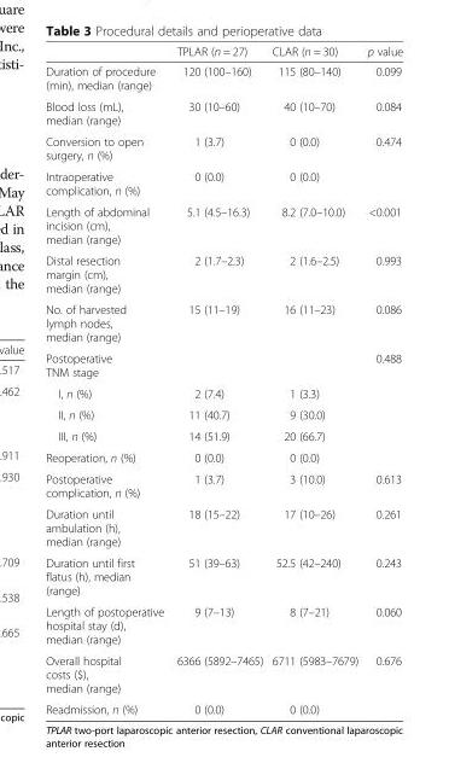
<table><thead><tr><td></td><td>TPLAR (n = 27)</td><td>CLAR (n = 30)</td><td>p value</td></tr></thead><tbody><tr><td>Duration of procedure (min), median (range)</td><td>120 (100–160)</td><td>115 (80–140)</td><td>0.099</td></tr><tr><td>Blood loss (mL), median (range)</td><td>30 (10–60)</td><td>40 (10–70)</td><td>0.084</td></tr><tr><td>Conversion to open surgery, n (%)</td><td>1 (3.7)</td><td>0 (0.0)</td><td>0.474</td></tr><tr><td>Intraoperative complication, n (%)</td><td>0 (0.0)</td><td>0 (0.0)</td><td></td></tr><tr><td>Length of abdominal incision (cm), median (range)</td><td>5.1 (4.5–16.3)</td><td>8.2 (7.0–10.0)</td><td>&lt;0.001</td></tr><tr><td>Distal resection margin (cm), median (range)</td><td>2 (1.7–2.3)</td><td>2 (1.6–2.5)</td><td>0.993</td></tr><tr><td>No. of harvested lymph nodes, median (range)</td><td>15 (11–19)</td><td>16 (11–23)</td><td>0.086</td></tr><tr><td>Postoperative TNM stage</td><td></td><td></td><td>0.488</td></tr><tr><td>I, n (%)</td><td>2 (7.4)</td><td>1 (3.3)</td><td></td></tr><tr><td>II, n (%)</td><td>11 (40.7)</td><td>9 (30.0)</td><td></td></tr><tr><td>III, n (%)</td><td>14 (51.9)</td><td>20 (66.7)</td><td></td></tr><tr><td>Reoperation, n (%)</td><td>0 (0.0)</td><td>0 (0.0)</td><td></td></tr><tr><td>Postoperative complication, n (%)</td><td>1 (3.7)</td><td>3 (10.0)</td><td>0.613</td></tr><tr><td>Duration until ambulation (h), median (range)</td><td>18 (15–22)</td><td>17 (10–26)</td><td>0.261</td></tr><tr><td>Duration until first flatus (h), median (range)</td><td>51 (39–63)</td><td>52.5 (42–240)</td><td>0.243</td></tr><tr><td>Length of postoperative hospital stay (d), median (range)</td><td>9 (7–13)</td><td>8 (7–21)</td><td>0.060</td></tr><tr><td>Overall hospital costs ($), median (range)</td><td>6366 (5892–7465)</td><td>6711 (5983–7679)</td><td>0.676</td></tr><tr><td>Readmission, n (%)</td><td>0 (0.0)</td><td>0 (0.0)</td><td></td></tr></tbody></table>